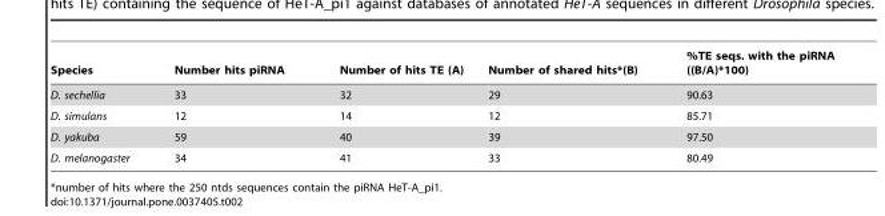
<table><thead><tr><td>Species</td><td>Number hits piRNA</td><td>Number of hits TE (A)</td><td>Number of shared hits*(B)</td><td>%TE seqs. with the piRNA ((B/A)*100)</td></tr></thead><tbody><tr><td>D. sechellia</td><td>33</td><td>32</td><td>29</td><td>90.63</td></tr><tr><td>D. simulans</td><td>12</td><td>14</td><td>12</td><td>85.71</td></tr><tr><td>D. yakuba</td><td>59</td><td>40</td><td>39</td><td>97.50</td></tr><tr><td>D. melanogaster</td><td>34</td><td>41</td><td>33</td><td>80.49</td></tr></tbody></table>